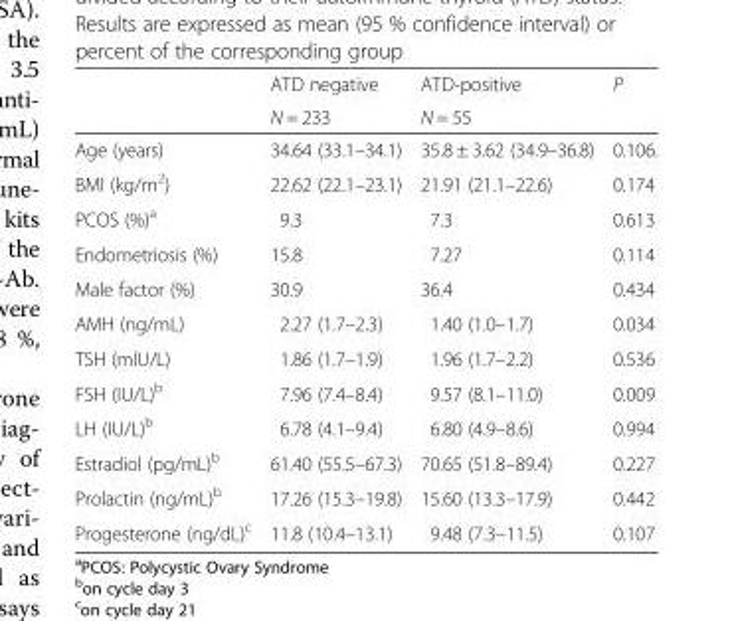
<table><thead><tr><td rowspan="2"></td><td rowspan="2">ATD negative N = 233</td><td rowspan="2">ATD-positive N = 55</td><td rowspan="2">P</td></tr><tr></tr></thead><tbody><tr><td>Age (years)</td><td>34.64 (33.1–34.1)</td><td>35.8 ± 3.62 (34.9–36.8)</td><td>0.106.</td></tr><tr><td>BMI (kg/m<sup>2</sup>)</td><td>22.62 (22.1–23.1)</td><td>21.91 (21.1–22.6)</td><td>0.174</td></tr><tr><td>PCOS (%)<sup>a</sup></td><td>9.3</td><td>7.3</td><td>0.613</td></tr><tr><td>Endometriosis (%)</td><td>15.8</td><td>7.27</td><td>0.114</td></tr><tr><td>Male factor (%)</td><td>30.9</td><td>36.4</td><td>0.434</td></tr><tr><td>AMH (ng/mL)</td><td>2.27 (1.7–2.3)</td><td>1.40 (1.0–1.7)</td><td>0.034</td></tr><tr><td>TSH (mIU/L)</td><td>1.86 (1.7–1.9)</td><td>1.96 (1.7–2.2)</td><td>0.536</td></tr><tr><td>FSH (IU/L)<sup>b</sup></td><td>7.96 (7.4–8.4)</td><td>9.57 (8.1–11.0)</td><td>0.009</td></tr><tr><td>LH (IU/L)<sup>b</sup></td><td>6.78 (4.1–9.4)</td><td>6.80 (4.9–8.6)</td><td>0.994</td></tr><tr><td>Estradiol (pg/mL)<sup>b</sup></td><td>61.40 (55.5–67.3)</td><td>70.65 (51.8–89.4)</td><td>0.227</td></tr><tr><td>Prolactin (ng/mL)<sup>b</sup></td><td>17.26 (15.3–19.8)</td><td>15.60 (13.3–17.9)</td><td>0.442</td></tr><tr><td>Progesterone (ng/dL)<sup>c</sup></td><td>11.8 (10.4–13.1)</td><td>9.48 (7.3–11.5)</td><td>0.107</td></tr></tbody></table>